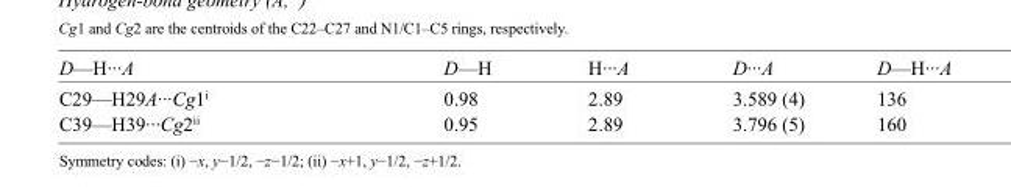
<table><tbody><tr><td>D—H···A</td><td>D—H</td><td>H···A</td><td>D···A</td><td>D—H···A</td></tr><tr><td>C29—H29A···Cg1<sup>i</sup></td><td>0.98</td><td>2.89</td><td>3.589 (4)</td><td>136</td></tr><tr><td>C39—H39···Cg2<sup>ii</sup></td><td>0.95</td><td>2.89</td><td>3.796 (5)</td><td>160</td></tr></tbody></table>